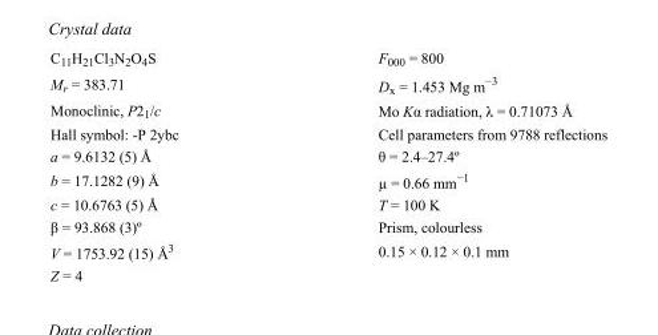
<table><tbody><tr><td>C<sub>11</sub>H<sub>21</sub>Cl<sub>3</sub>N<sub>2</sub>O<sub>4</sub>S</td><td>F000 = 800</td></tr><tr><td>M<sub>r</sub> = 383.71</td><td>D<sub>x</sub> = 1.453 Mg m<sup>−3</sup></td></tr><tr><td>Monoclinic, P2<sub>1</sub>/c</td><td>Mo Kα radiation, λ = 0.71073 Å</td></tr><tr><td>Hall symbol: -P 2ybc</td><td>Cell parameters from 9788 reflections</td></tr><tr><td>a = 9.6132 (5) Å</td><td>θ = 2.4–27.4º</td></tr><tr><td>b = 17.1282 (9) Å</td><td>µ = 0.66 mm<sup>−1</sup></td></tr><tr><td>c = 10.6763 (5) Å</td><td>T = 100 K</td></tr><tr><td>β = 93.868 (3)º</td><td>Prism, colourless</td></tr><tr><td>V = 1753.92 (15) Å<sup>3</sup></td><td>0.15 × 0.12 × 0.1 mm</td></tr><tr><td>Z = 4</td><td></td></tr></tbody></table>